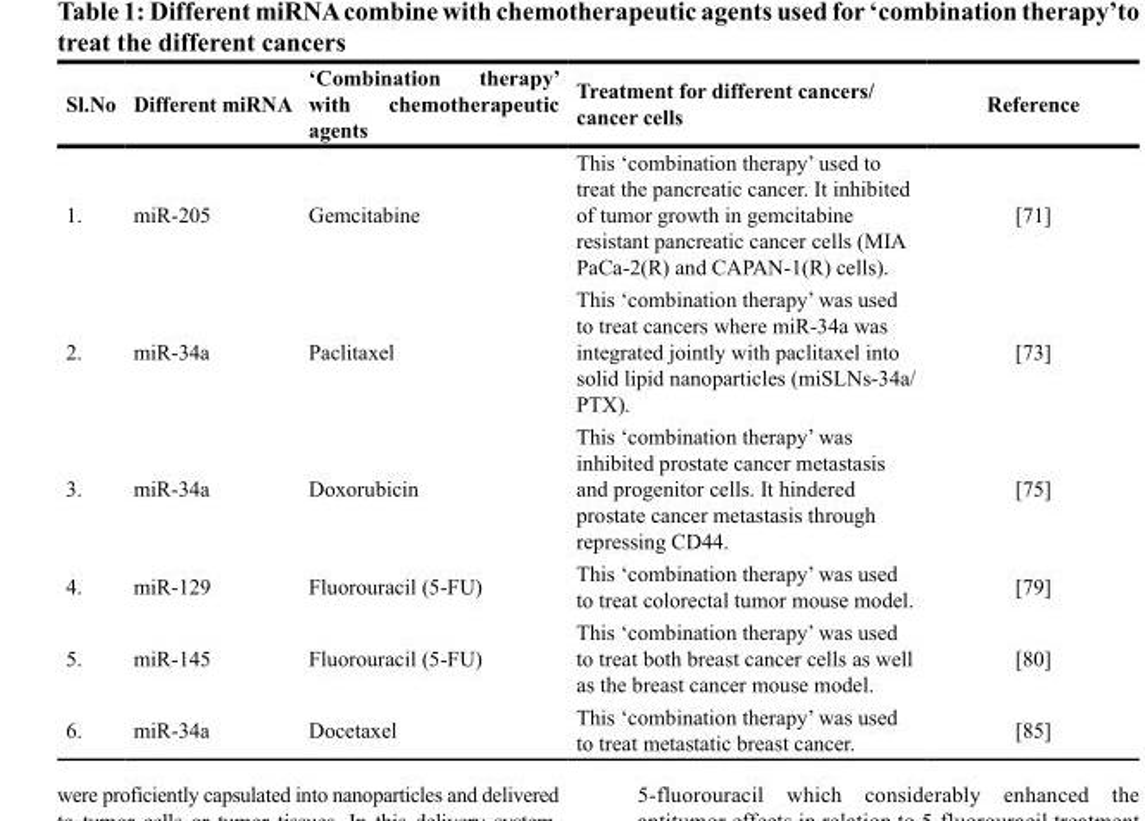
<table><thead><tr><td>Sl.No</td><td>Different miRNA</td><td>‘Combination therapy’ with chemotherapeutic agents</td><td>Treatment for different cancers/ cancer cells</td><td>Reference</td></tr></thead><tbody><tr><td>1.</td><td>miR-205</td><td>Gemcitabine</td><td>This ‘combination therapy’ used to treat the pancreatic cancer. It inhibited of tumor growth in gemcitabine resistant pancreatic cancer cells (MIA PaCa-2(R) and CAPAN-1(R) cells).</td><td>[71]</td></tr><tr><td>2.</td><td>miR-34a</td><td>Paclitaxel</td><td>This ‘combination therapy’ was used to treat cancers where miR-34a was integrated jointly with paclitaxel into solid lipid nanoparticles (miSLNs-34a/ PTX).</td><td>[73]</td></tr><tr><td>3.</td><td>miR-34a</td><td>Doxorubicin</td><td>This ‘combination therapy’ was inhibited prostate cancer metastasis and progenitor cells. It hindered prostate cancer metastasis through repressing CD44.</td><td>[75]</td></tr><tr><td>4.</td><td>miR-129</td><td>Fluorouracil (5-FU)</td><td>This ‘combination therapy’ was used to treat colorectal tumor mouse model.</td><td>[79]</td></tr><tr><td>5.</td><td>miR-145</td><td>Fluorouracil (5-FU)</td><td>This ‘combination therapy’ was used to treat both breast cancer cells as well as the breast cancer mouse model.</td><td>[80]</td></tr><tr><td>6.</td><td>miR-34a</td><td>Docetaxel</td><td>This ‘combination therapy’ was used to treat metastatic breast cancer.</td><td>[85]</td></tr></tbody></table>